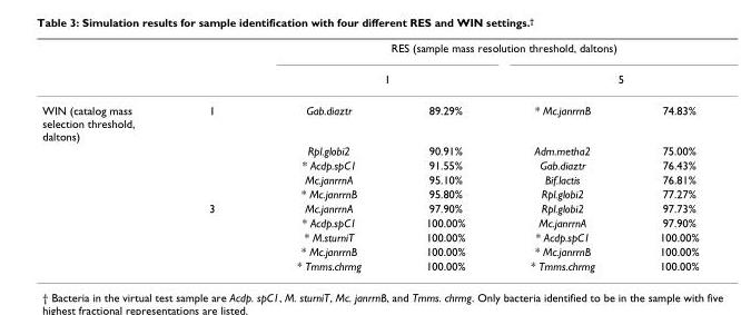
<table><thead><tr><td rowspan="3">WIN (catalog mass selection threshold, daltons)</td><td rowspan="3">1</td><td colspan="4">RES (sample mass resolution threshold, daltons)</td></tr><tr><td colspan="2">1</td><td colspan="2">5</td></tr><tr><td>Gab.diaztr</td><td>89.29%</td><td>* Mc.janrrnB</td><td>74.83%</td></tr></thead><tbody><tr><td></td><td></td><td>Rpl.globi2</td><td>90.91%</td><td>Adm.metha2</td><td>75.00%</td></tr><tr><td></td><td></td><td>* Acdp.spC1</td><td>91.55%</td><td>Gab.diaztr</td><td>76.43%</td></tr><tr><td></td><td></td><td>Mc.janrrnA</td><td>95.10%</td><td>Bif.lactis</td><td>76.81%</td></tr><tr><td></td><td></td><td>* Mc.janrrnB</td><td>95.80%</td><td>Rpl.globi2</td><td>77.27%</td></tr><tr><td></td><td>3</td><td>Mc.janrrnA</td><td>97.90%</td><td>Rpl.globi2</td><td>97.73%</td></tr><tr><td></td><td></td><td>* Acdp.spC1</td><td>100.00%</td><td>Mc.janrrnA</td><td>97.90%</td></tr><tr><td></td><td></td><td>* M.sturniT</td><td>100.00%</td><td>* Acdp.spC1</td><td>100.00%</td></tr><tr><td></td><td></td><td>* Mc.janrrnB</td><td>100.00%</td><td>* Mc.janrrnB</td><td>100.00%</td></tr><tr><td></td><td></td><td>* Tmms.chrmg</td><td>100.00%</td><td>* Tmms.chrmg</td><td>100.00%</td></tr></tbody></table>